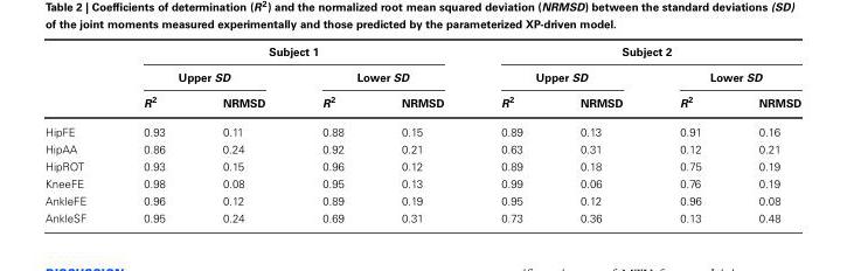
<table><thead><tr><td rowspan="3"></td><td colspan="4">Subject 1</td><td colspan="4">Subject 2</td></tr><tr><td colspan="2">Upper SD</td><td colspan="2">Lower SD</td><td colspan="2">Upper SD</td><td colspan="2">Lower SD</td></tr><tr><td>R<sup>2</sup></td><td>NRMSD</td><td>R<sup>2</sup></td><td>NRMSD</td><td>R<sup>2</sup></td><td>NRMSD</td><td>R<sup>2</sup></td><td>NRMSD</td></tr></thead><tbody><tr><td>HipFE</td><td>0.93</td><td>0.11</td><td>0.88</td><td>0.15</td><td>0.89</td><td>0.13</td><td>0.91</td><td>0.16</td></tr><tr><td>HipAA</td><td>0.86</td><td>0.24</td><td>0.92</td><td>0.21</td><td>0.63</td><td>0.31</td><td>0.12</td><td>0.21</td></tr><tr><td>HipROT</td><td>0.93</td><td>0.15</td><td>0.96</td><td>0.12</td><td>0.89</td><td>0.18</td><td>0.75</td><td>0.19</td></tr><tr><td>KneeFE</td><td>0.98</td><td>0.08</td><td>0.95</td><td>0.13</td><td>0.99</td><td>0.06</td><td>0.76</td><td>0.19</td></tr><tr><td>AnkleFE</td><td>0.96</td><td>0.12</td><td>0.89</td><td>0.19</td><td>0.95</td><td>0.12</td><td>0.96</td><td>0.08</td></tr><tr><td>AnkleSF</td><td>0.95</td><td>0.24</td><td>0.69</td><td>0.31</td><td>0.73</td><td>0.36</td><td>0.13</td><td>0.48</td></tr></tbody></table>